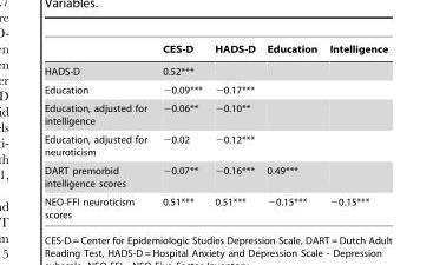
<table><thead><tr><td></td><td>CES-D</td><td>HADS-D</td><td>Education</td><td>Intelligence</td></tr></thead><tbody><tr><td>HADS-D</td><td>0.52***</td><td></td><td></td><td></td></tr><tr><td>Education</td><td>−0.09***</td><td>−0.17***</td><td></td><td></td></tr><tr><td>Education, adjusted for intelligence</td><td>−0.06**</td><td>−0.10**</td><td></td><td></td></tr><tr><td>Education, adjusted for neuroticism</td><td>−0.02</td><td>−0.12***</td><td></td><td></td></tr><tr><td>DART premorbid intelligence scores</td><td>−0.07**</td><td>−0.16***</td><td>0.49***</td><td></td></tr><tr><td>NEO-FFI neuroticism scores</td><td>0.51***</td><td>0.51***</td><td>−0.15***</td><td>−0.15***</td></tr></tbody></table>